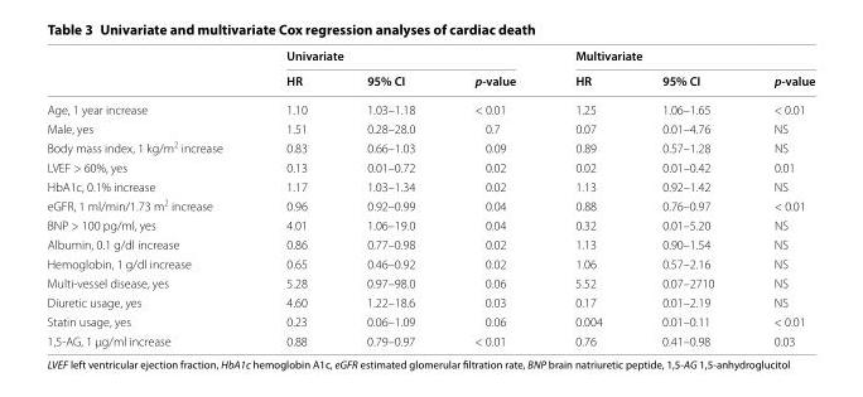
<table><thead><tr><td rowspan="2"></td><td colspan="3">Univariate</td><td colspan="3">Multivariate</td></tr><tr><td>HR</td><td>95% CI</td><td>p-value</td><td>HR</td><td>95% CI</td><td>p-value</td></tr></thead><tbody><tr><td>Age, 1 year increase</td><td>1.10</td><td>1.03–1.18</td><td>&lt; 0.01</td><td>1.25</td><td>1.06–1.65</td><td>&lt; 0.01</td></tr><tr><td>Male, yes</td><td>1.51</td><td>0.28–28.0</td><td>0.7</td><td>0.07</td><td>0.01–4.76</td><td>NS</td></tr><tr><td>Body mass index, 1 kg/m<sup>2</sup> increase</td><td>0.83</td><td>0.66–1.03</td><td>0.09</td><td>0.89</td><td>0.57–1.28</td><td>NS</td></tr><tr><td>LVEF &gt; 60%, yes</td><td>0.13</td><td>0.01–0.72</td><td>0.02</td><td>0.02</td><td>0.01–0.42</td><td>0.01</td></tr><tr><td>HbA1c, 0.1% increase</td><td>1.17</td><td>1.03–1.34</td><td>0.02</td><td>1.13</td><td>0.92–1.42</td><td>NS</td></tr><tr><td>eGFR, 1 ml/min/1.73 m<sup>2</sup> increase</td><td>0.96</td><td>0.92–0.99</td><td>0.04</td><td>0.88</td><td>0.76–0.97</td><td>&lt; 0.01</td></tr><tr><td>BNP &gt; 100 pg/ml, yes</td><td>4.01</td><td>1.06–19.0</td><td>0.04</td><td>0.32</td><td>0.01–5.20</td><td>NS</td></tr><tr><td>Albumin, 0.1 g/dl increase</td><td>0.86</td><td>0.77–0.98</td><td>0.02</td><td>1.13</td><td>0.90–1.54</td><td>NS</td></tr><tr><td>Hemoglobin, 1 g/dl increase</td><td>0.65</td><td>0.46–0.92</td><td>0.02</td><td>1.06</td><td>0.57–2.16</td><td>NS</td></tr><tr><td>Multi-vessel disease, yes</td><td>5.28</td><td>0.97–98.0</td><td>0.06</td><td>5.52</td><td>0.07–2710</td><td>NS</td></tr><tr><td>Diuretic usage, yes</td><td>4.60</td><td>1.22–18.6</td><td>0.03</td><td>0.17</td><td>0.01–2.19</td><td>NS</td></tr><tr><td>Statin usage, yes</td><td>0.23</td><td>0.06–1.09</td><td>0.06</td><td>0.004</td><td>0.01–0.11</td><td>&lt; 0.01</td></tr><tr><td>1,5-AG, 1 µg/ml increase</td><td>0.88</td><td>0.79–0.97</td><td>&lt; 0.01</td><td>0.76</td><td>0.41–0.98</td><td>0.03</td></tr></tbody></table>